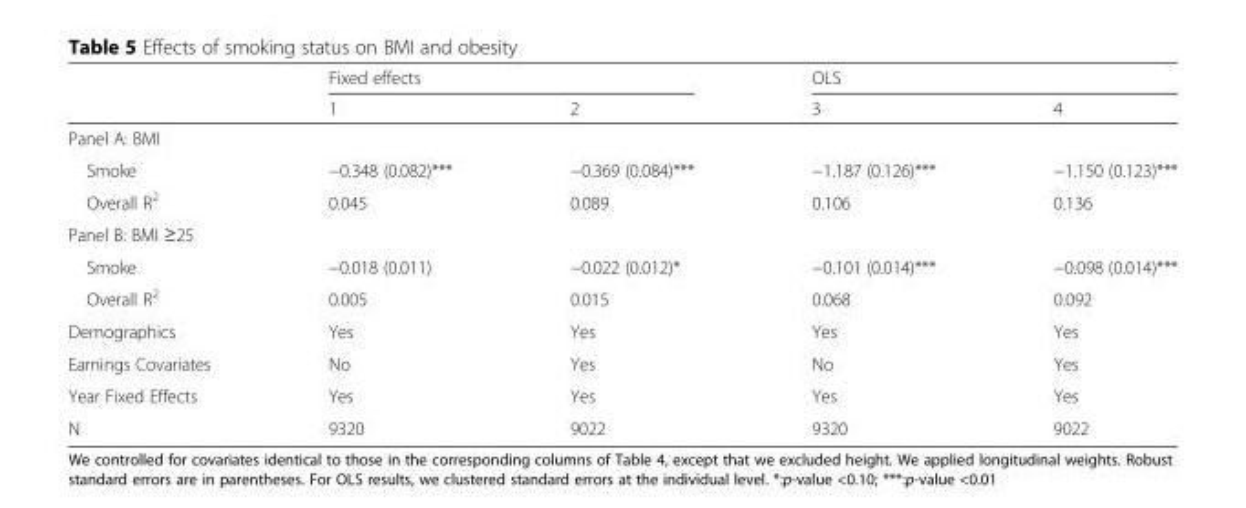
<table><thead><tr><td rowspan="2"></td><td colspan="2">Fixed effects</td><td colspan="2">OLS</td></tr><tr><td>1</td><td>2</td><td>3</td><td>4</td></tr></thead><tbody><tr><td colspan="5">Panel A: BMI</td></tr><tr><td>Smoke</td><td>−0.348 (0.082)***</td><td>−0.369 (0.084)***</td><td>−1.187 (0.126)***</td><td>−1.150 (0.123)***</td></tr><tr><td>Overall R<sup>2</sup></td><td>0.045</td><td>0.089</td><td>0.106</td><td>0.136</td></tr><tr><td colspan="5">Panel B: BMI ≥25</td></tr><tr><td>Smoke</td><td>−0.018 (0.011)</td><td>−0.022 (0.012)*</td><td>−0.101 (0.014)***</td><td>−0.098 (0.014)***</td></tr><tr><td>Overall R<sup>2</sup></td><td>0.005</td><td>0.015</td><td>0.068</td><td>0.092</td></tr><tr><td>Demographics</td><td>Yes</td><td>Yes</td><td>Yes</td><td>Yes</td></tr><tr><td>Earnings Covariates</td><td>No</td><td>Yes</td><td>No</td><td>Yes</td></tr><tr><td>Year Fixed Effects</td><td>Yes</td><td>Yes</td><td>Yes</td><td>Yes</td></tr><tr><td>N</td><td>9320</td><td>9022</td><td>9320</td><td>9022</td></tr></tbody></table>